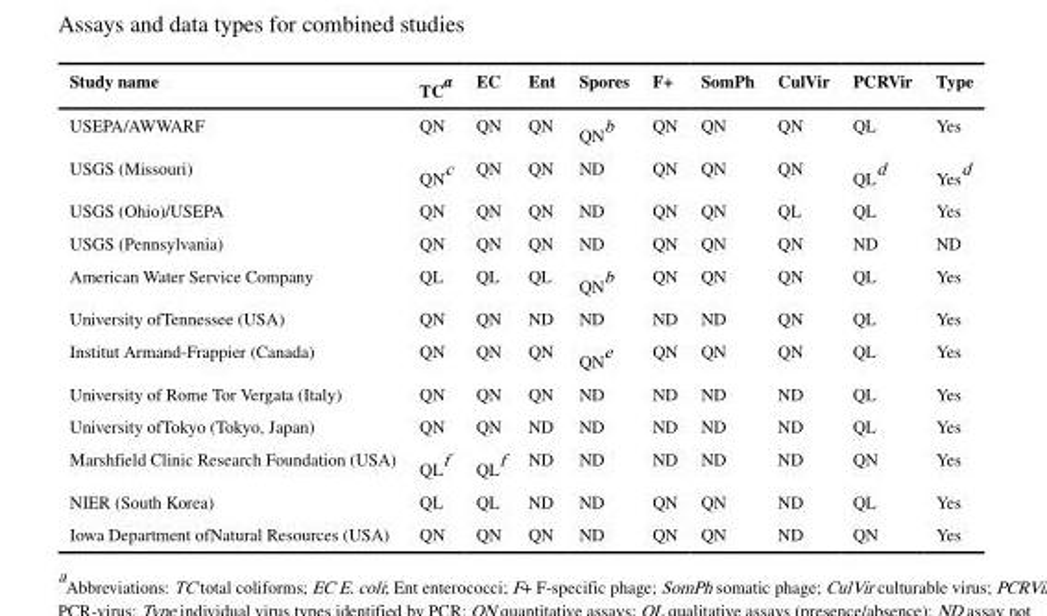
<table><thead><tr><td>Study name</td><td>TC<sup>a</sup></td><td>EC</td><td>Ent</td><td>Spores</td><td>F+</td><td>SomPh</td><td>CulVir</td><td>PCRVir</td><td>Type</td></tr></thead><tbody><tr><td>USEPA/AWWARF</td><td>QN</td><td>QN</td><td>QN</td><td>QN<sup>b</sup></td><td>QN</td><td>QN</td><td>QN</td><td>QL</td><td>Yes</td></tr><tr><td>USGS (Missouri)</td><td>QN<sup>c</sup></td><td>QN</td><td>QN</td><td>ND</td><td>QN</td><td>QN</td><td>QN</td><td>QL<sup>d</sup></td><td>Yes<sup>d</sup></td></tr><tr><td>USGS (Ohio)/USEPA</td><td>QN</td><td>QN</td><td>QN</td><td>ND</td><td>QN</td><td>QN</td><td>QL</td><td>QL</td><td>Yes</td></tr><tr><td>USGS (Pennsylvania)</td><td>QN</td><td>QN</td><td>QN</td><td>ND</td><td>QN</td><td>QN</td><td>QN</td><td>ND</td><td>ND</td></tr><tr><td>American Water Service Company</td><td>QL</td><td>QL</td><td>QL</td><td>QN<sup>b</sup></td><td>QN</td><td>QN</td><td>QN</td><td>QL</td><td>Yes</td></tr><tr><td>University ofTennessee (USA)</td><td>QN</td><td>QN</td><td>ND</td><td>ND</td><td>ND</td><td>ND</td><td>QN</td><td>QL</td><td>Yes</td></tr><tr><td>Institut Armand-Frappier (Canada)</td><td>QN</td><td>QN</td><td>QN</td><td>QN<sup>e</sup></td><td>QN</td><td>QN</td><td>QN</td><td>QL</td><td>Yes</td></tr><tr><td>University of Rome Tor Vergata (Italy)</td><td>QN</td><td>QN</td><td>QN</td><td>ND</td><td>ND</td><td>ND</td><td>ND</td><td>QL</td><td>Yes</td></tr><tr><td>University ofTokyo (Tokyo, Japan)</td><td>QN</td><td>QN</td><td>ND</td><td>ND</td><td>ND</td><td>ND</td><td>ND</td><td>QL</td><td>Yes</td></tr><tr><td>Marshfield Clinic Research Foundation (USA)</td><td>QL<sup>f</sup></td><td>QL<sup>f</sup></td><td>ND</td><td>ND</td><td>ND</td><td>ND</td><td>ND</td><td>QN</td><td>Yes</td></tr><tr><td>NIER (South Korea)</td><td>QL</td><td>QL</td><td>ND</td><td>ND</td><td>QN</td><td>QN</td><td>ND</td><td>QL</td><td>Yes</td></tr><tr><td>Iowa Department ofNatural Resources (USA)</td><td>QN</td><td>QN</td><td>QN</td><td>ND</td><td>QN</td><td>QN</td><td>ND</td><td>QN</td><td>Yes</td></tr></tbody></table>